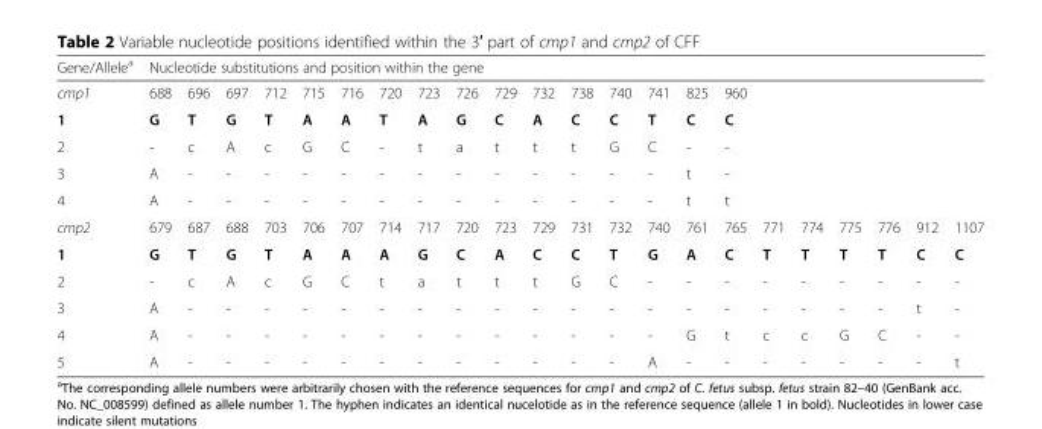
<table><thead><tr><td rowspan="2">Gene/Allele<sup>a</sup> cmp1</td><td colspan="22">Nucleotide substitutions and position within the gene</td></tr><tr><td>688</td><td>696</td><td>697</td><td>712</td><td>715</td><td>716</td><td>720</td><td>723</td><td>726</td><td>729</td><td>732</td><td>738</td><td>740</td><td>741</td><td>825</td><td>960</td><td></td><td></td><td></td><td></td><td></td><td></td></tr></thead><tbody><tr><td>1</td><td>G</td><td>T</td><td>G</td><td>T</td><td>A</td><td>A</td><td>T</td><td>A</td><td>G</td><td>C</td><td>A</td><td>C</td><td>C</td><td>T</td><td>C</td><td>C</td><td></td><td></td><td></td><td></td><td></td><td></td></tr><tr><td>2</td><td>-</td><td>c</td><td>A</td><td>c</td><td>G</td><td>C</td><td>-</td><td>t</td><td>a</td><td>t</td><td>t</td><td>t</td><td>G</td><td>C</td><td>-</td><td>-</td><td></td><td></td><td></td><td></td><td></td><td></td></tr><tr><td>3</td><td>A</td><td>-</td><td>-</td><td>-</td><td>-</td><td>-</td><td>-</td><td>-</td><td>-</td><td>-</td><td>-</td><td>-</td><td>-</td><td>-</td><td>t</td><td>-</td><td></td><td></td><td></td><td></td><td></td><td></td></tr><tr><td>4</td><td>A</td><td>-</td><td>-</td><td>-</td><td>-</td><td>-</td><td>-</td><td>-</td><td>-</td><td>-</td><td>-</td><td>-</td><td>-</td><td>-</td><td>t</td><td>t</td><td></td><td></td><td></td><td></td><td></td><td></td></tr><tr><td>cmp2</td><td>679</td><td>687</td><td>688</td><td>703</td><td>706</td><td>707</td><td>714</td><td>717</td><td>720</td><td>723</td><td>729</td><td>731</td><td>732</td><td>740</td><td>761</td><td>765</td><td>771</td><td>774</td><td>775</td><td>776</td><td>912</td><td>1107</td></tr><tr><td>1</td><td>G</td><td>T</td><td>G</td><td>T</td><td>A</td><td>A</td><td>A</td><td>G</td><td>C</td><td>A</td><td>C</td><td>C</td><td>T</td><td>G</td><td>A</td><td>C</td><td>T</td><td>T</td><td>T</td><td>T</td><td>C</td><td>C</td></tr><tr><td>2</td><td>-</td><td>c</td><td>A</td><td>c</td><td>G</td><td>C</td><td>t</td><td>a</td><td>t</td><td>t</td><td>t</td><td>G</td><td>C</td><td>-</td><td>-</td><td>-</td><td>-</td><td>-</td><td>-</td><td>-</td><td>-</td><td>-</td></tr><tr><td>3</td><td>A</td><td>-</td><td>-</td><td>-</td><td>-</td><td>-</td><td>-</td><td>-</td><td>-</td><td>-</td><td>-</td><td>-</td><td>-</td><td>-</td><td>-</td><td>-</td><td>-</td><td>-</td><td>-</td><td>-</td><td>t</td><td>-</td></tr><tr><td>4</td><td>A</td><td>-</td><td>-</td><td>-</td><td>-</td><td>-</td><td>-</td><td>-</td><td>-</td><td>-</td><td>-</td><td>-</td><td>-</td><td>-</td><td>G</td><td>t</td><td>c</td><td>c</td><td>G</td><td>C</td><td>-</td><td>-</td></tr><tr><td>5</td><td>A</td><td>-</td><td>-</td><td>-</td><td>-</td><td>-</td><td>-</td><td>-</td><td>-</td><td>-</td><td>-</td><td>-</td><td>-</td><td>A</td><td>-</td><td>-</td><td>-</td><td>-</td><td>-</td><td>-</td><td>-</td><td>t</td></tr></tbody></table>